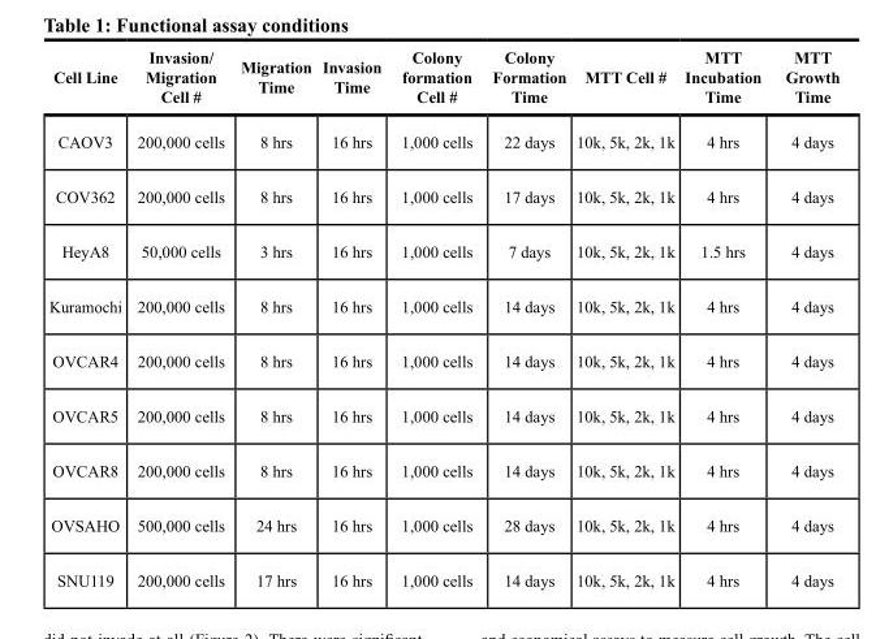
<table><thead><tr><td>Cell Line</td><td>Invasion/ Migration Cell #</td><td>Migration Time</td><td>Invasion Time</td><td>Colony formation Cell #</td><td>Colony Formation Time</td><td>MTT Cell #</td><td>MTT Incubation Time</td><td>MTT Growth Time</td></tr></thead><tbody><tr><td>CAOV3</td><td>200,000 cells</td><td>8 hrs</td><td>16 hrs</td><td>1,000 cells</td><td>22 days</td><td>10k, 5k, 2k, 1k</td><td>4 hrs</td><td>4 days</td></tr><tr><td>COV362</td><td>200,000 cells</td><td>8 hrs</td><td>16 hrs</td><td>1,000 cells</td><td>17 days</td><td>10k, 5k, 2k, 1k</td><td>4 hrs</td><td>4 days</td></tr><tr><td>HeyA8</td><td>50,000 cells</td><td>3 hrs</td><td>16 hrs</td><td>1,000 cells</td><td>7 days</td><td>10k, 5k, 2k, 1k</td><td>1.5 hrs</td><td>4 days</td></tr><tr><td>Kuramochi</td><td>200,000 cells</td><td>8 hrs</td><td>16 hrs</td><td>1,000 cells</td><td>14 days</td><td>10k, 5k, 2k, 1k</td><td>4 hrs</td><td>4 days</td></tr><tr><td>OVCAR4</td><td>200,000 cells</td><td>8 hrs</td><td>16 hrs</td><td>1,000 cells</td><td>14 days</td><td>10k, 5k, 2k, 1k</td><td>4 hrs</td><td>4 days</td></tr><tr><td>OVCAR5</td><td>200,000 cells</td><td>8 hrs</td><td>16 hrs</td><td>1,000 cells</td><td>14 days</td><td>10k, 5k, 2k, 1k</td><td>4 hrs</td><td>4 days</td></tr><tr><td>OVCAR8</td><td>200,000 cells</td><td>8 hrs</td><td>16 hrs</td><td>1,000 cells</td><td>14 days</td><td>10k, 5k, 2k, 1k</td><td>4 hrs</td><td>4 days</td></tr><tr><td>OVSAHO</td><td>500,000 cells</td><td>24 hrs</td><td>16 hrs</td><td>1,000 cells</td><td>28 days</td><td>10k, 5k, 2k, 1k</td><td>4 hrs</td><td>4 days</td></tr><tr><td>SNU119</td><td>200,000 cells</td><td>17 hrs</td><td>16 hrs</td><td>1,000 cells</td><td>14 days</td><td>10k, 5k, 2k, 1k</td><td>4 hrs</td><td>4 days</td></tr></tbody></table>